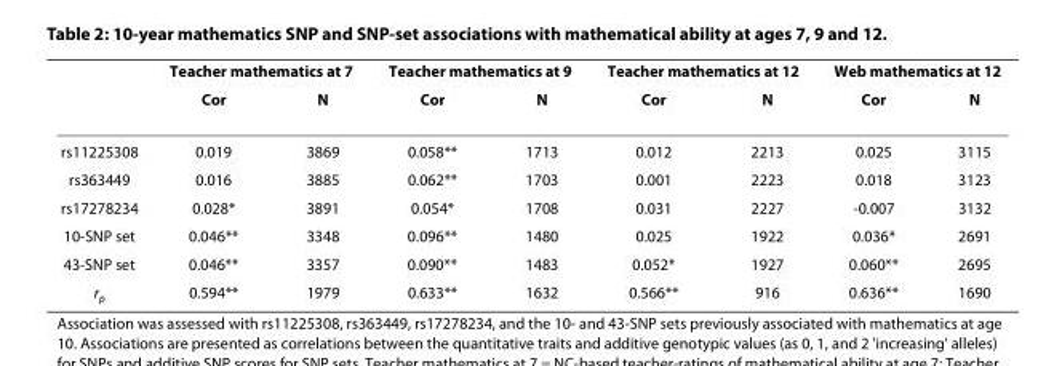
<table><thead><tr><td rowspan="2"></td><td colspan="2">Teacher mathematics at 7</td><td colspan="2">Teacher mathematics at 9</td><td colspan="2">Teacher mathematics at 12</td><td colspan="2">Web mathematics at 12</td></tr><tr><td>Cor</td><td>N</td><td>Cor</td><td>N</td><td>Cor</td><td>N</td><td>Cor</td><td>N</td></tr></thead><tbody><tr><td>rs11225308</td><td>0.019</td><td>3869</td><td>0.058**</td><td>1713</td><td>0.012</td><td>2213</td><td>0.025</td><td>3115</td></tr><tr><td>rs363449</td><td>0.016</td><td>3885</td><td>0.062**</td><td>1703</td><td>0.001</td><td>2223</td><td>0.018</td><td>3123</td></tr><tr><td>rs17278234</td><td>0.028*</td><td>3891</td><td>0.054*</td><td>1708</td><td>0.031</td><td>2227</td><td>-0.007</td><td>3132</td></tr><tr><td>10-SNP set</td><td>0.046**</td><td>3348</td><td>0.096**</td><td>1480</td><td>0.025</td><td>1922</td><td>0.036*</td><td>2691</td></tr><tr><td>43-SNP set</td><td>0.046**</td><td>3357</td><td>0.090**</td><td>1483</td><td>0.052*</td><td>1927</td><td>0.060**</td><td>2695</td></tr><tr><td>r<sub>p</sub></td><td>0.594**</td><td>1979</td><td>0.633**</td><td>1632</td><td>0.566**</td><td>916</td><td>0.636**</td><td>1690</td></tr></tbody></table>